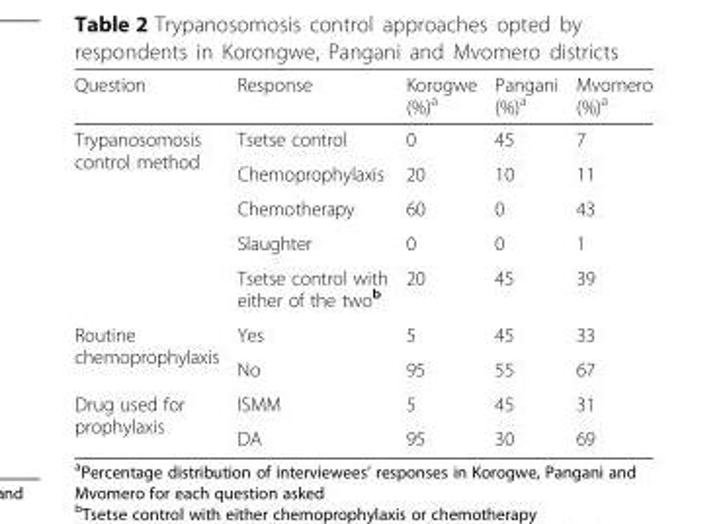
<table><thead><tr><td>Question</td><td>Response</td><td>Korogwe (%)<sup>a</sup></td><td>Pangani (%)<sup>a</sup></td><td>Mvomero (%)<sup>a</sup></td></tr></thead><tbody><tr><td rowspan="5">Trypanosomosis control method</td><td>Tsetse control</td><td>0</td><td>45</td><td>7</td></tr><tr><td>Chemoprophylaxis</td><td>20</td><td>10</td><td>11</td></tr><tr><td>Chemotherapy</td><td>60</td><td>0</td><td>43</td></tr><tr><td>Slaughter</td><td>0</td><td>0</td><td>1</td></tr><tr><td>Tsetse control with either of the two<sup>b</sup></td><td>20</td><td>45</td><td>39</td></tr><tr><td rowspan="2">Routine chemoprophylaxis</td><td>Yes</td><td>5</td><td>45</td><td>33</td></tr><tr><td>No</td><td>95</td><td>55</td><td>67</td></tr><tr><td rowspan="2">Drug used for prophylaxis</td><td>ISMM</td><td>5</td><td>45</td><td>31</td></tr><tr><td>DA</td><td>95</td><td>30</td><td>69</td></tr></tbody></table>